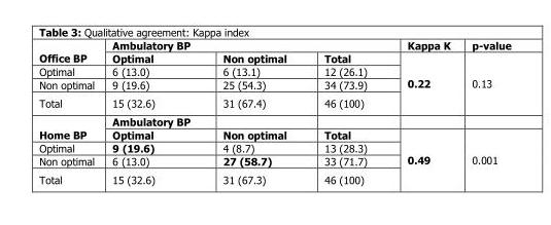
<table><tbody><tr><td rowspan="2">Office BP</td><td colspan="3">Ambulatory BP</td><td>Kappa K</td><td>p-value</td></tr><tr><td>Optimal</td><td>Non optimal</td><td>Total</td><td rowspan="4">0.22</td><td rowspan="4">0.13</td></tr><tr><td>Optimal</td><td>6 (13.0)</td><td>6 (13.1)</td><td>12 (26.1)</td></tr><tr><td>Non optimal</td><td>9 (19.6)</td><td>25 (54.3)</td><td>34 (73.9)</td></tr><tr><td>Total</td><td>15 (32.6)</td><td>31 (67.4)</td><td>46 (100)</td></tr><tr><td rowspan="2">Home BP</td><td>Ambulatory BP</td><td></td><td></td><td></td><td></td></tr><tr><td>Optimal</td><td>Non optimal</td><td>Total</td><td rowspan="4">0.49</td><td rowspan="4">0.001</td></tr><tr><td>Optimal</td><td>9 (19.6)</td><td>4 (8.7)</td><td>13 (28.3)</td></tr><tr><td>Non optimal</td><td>6 (13.0)</td><td>27 (58.7)</td><td>33 (71.7)</td></tr><tr><td>Total</td><td>15 (32.6)</td><td>31 (67.3)</td><td>46 (100)</td></tr></tbody></table>